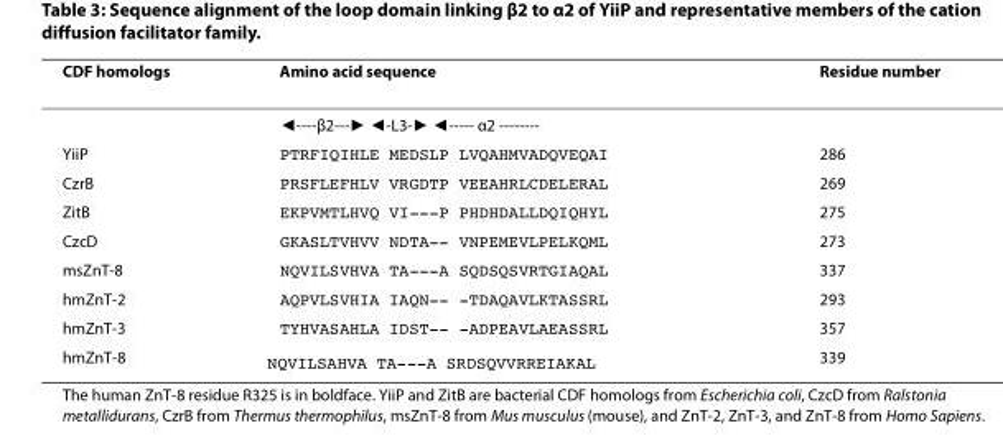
<table><thead><tr><td>CDF homologs</td><td>Amino acid sequence</td><td>Residue number</td></tr></thead><tbody><tr><td></td><td>*----β2---Ј *-L3-Ј *----- α2 --------</td><td></td></tr><tr><td>YiiP</td><td>PTRFIQIHLE MEDSLP LVQAHMVADQVEQAI</td><td>286</td></tr><tr><td>CzrB</td><td>PRSFLEFHLV VRGDTP VEEAHRLCDELERAL</td><td>269</td></tr><tr><td>ZitB</td><td>EKPVMTLHVQ VI---P PHDHDALLDQIQHYL</td><td>275</td></tr><tr><td>CzcD</td><td>GKASLTVHVV NDTA-- VNPEMEVLPELKQML</td><td>273</td></tr><tr><td>msZnT-8</td><td>NQVILSVHVA TA---A SQDSQSVRTGIAQAL</td><td>337</td></tr><tr><td>hmZnT-2</td><td>AQPVLSVHIA IAQN-- -TDAQAVLKTASSRL</td><td>293</td></tr><tr><td>hmZnT-3</td><td>TYHVASAHLA IDST-- -ADPEAVLAEASSRL</td><td>357</td></tr><tr><td>hmZnT-8</td><td>NQVILSAHVA TA---A SRDSQVVRREIAKAL</td><td>339</td></tr></tbody></table>